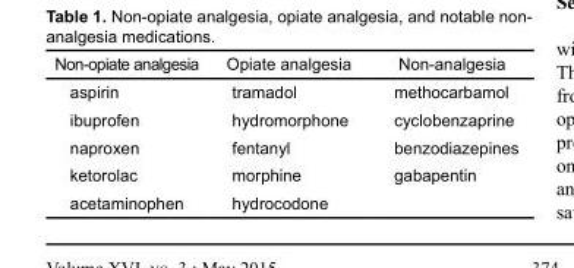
<table><thead><tr><td>Non-opiate analgesia</td><td>Opiate analgesia</td><td>Non-analgesia</td></tr></thead><tbody><tr><td>aspirin</td><td>tramadol</td><td>methocarbamol</td></tr><tr><td>ibuprofen</td><td>hydromorphone</td><td>cyclobenzaprine</td></tr><tr><td>naproxen</td><td>fentanyl</td><td>benzodiazepines</td></tr><tr><td>ketorolac</td><td>morphine</td><td>gabapentin</td></tr><tr><td>acetaminophen</td><td>hydrocodone</td><td></td></tr></tbody></table>